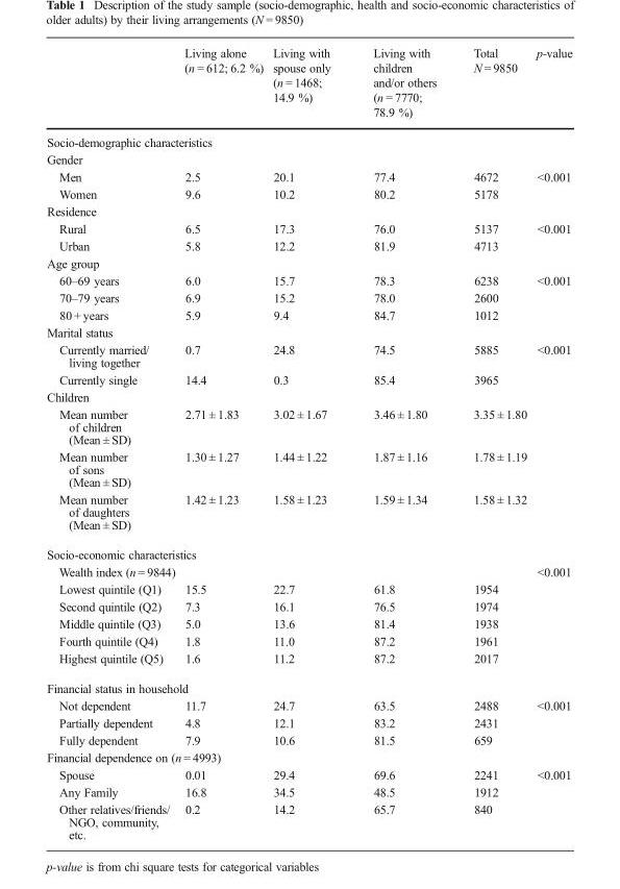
<table><thead><tr><td></td><td>Living alone (n = 612; 6.2 %)</td><td>Living with spouse only (n = 1468; 14.9 %)</td><td>Living with children and/or others (n = 7770; 78.9 %)</td><td>Total N = 9850</td><td>p-value</td></tr></thead><tbody><tr><td colspan="6">Socio-demographic characteristics</td></tr><tr><td colspan="6">Gender</td></tr><tr><td>Men</td><td>2.5</td><td>20.1</td><td>77.4</td><td>4672</td><td rowspan="2">&lt;0.001</td></tr><tr><td>Women</td><td>9.6</td><td>10.2</td><td>80.2</td><td>5178</td></tr><tr><td colspan="6">Residence</td></tr><tr><td>Rural</td><td>6.5</td><td>17.3</td><td>76.0</td><td>5137</td><td rowspan="2">&lt;0.001</td></tr><tr><td>Urban</td><td>5.8</td><td>12.2</td><td>81.9</td><td>4713</td></tr><tr><td colspan="6">Age group</td></tr><tr><td>60–69 years</td><td>6.0</td><td>15.7</td><td>78.3</td><td>6238</td><td rowspan="3">&lt;0.001</td></tr><tr><td>70–79 years</td><td>6.9</td><td>15.2</td><td>78.0</td><td>2600</td></tr><tr><td>80 + years</td><td>5.9</td><td>9.4</td><td>84.7</td><td>1012</td></tr><tr><td colspan="6">Marital status</td></tr><tr><td>Currently married/ living together</td><td>0.7</td><td>24.8</td><td>74.5</td><td>5885</td><td rowspan="2">&lt;0.001</td></tr><tr><td>Currently single</td><td>14.4</td><td>0.3</td><td>85.4</td><td>3965</td></tr><tr><td colspan="6">Children</td></tr><tr><td>Mean number of children (Mean ± SD)</td><td>2.71 ± 1.83</td><td>3.02 ± 1.67</td><td>3.46 ± 1.80</td><td>3.35 ± 1.80</td><td></td></tr><tr><td>Mean number of sons (Mean ± SD)</td><td>1.30 ± 1.27</td><td>1.44 ± 1.22</td><td>1.87 ± 1.16</td><td>1.78 ± 1.19</td><td></td></tr><tr><td>Mean number of daughters (Mean ± SD)</td><td>1.42 ± 1.23</td><td>1.58 ± 1.23</td><td>1.59 ± 1.34</td><td>1.58 ± 1.32</td><td></td></tr><tr><td colspan="6">Socio-economic characteristics</td></tr><tr><td colspan="5">Wealth index (n = 9844)</td><td rowspan="6">&lt;0.001</td></tr><tr><td>Lowest quintile (Q1)</td><td>15.5</td><td>22.7</td><td>61.8</td><td>1954</td></tr><tr><td>Second quintile (Q2)</td><td>7.3</td><td>16.1</td><td>76.5</td><td>1974</td></tr><tr><td>Middle quintile (Q3)</td><td>5.0</td><td>13.6</td><td>81.4</td><td>1938</td></tr><tr><td>Fourth quintile (Q4)</td><td>1.8</td><td>11.0</td><td>87.2</td><td>1961</td></tr><tr><td>Highest quintile (Q5)</td><td>1.6</td><td>11.2</td><td>87.2</td><td>2017</td></tr><tr><td colspan="6">Financial status in household</td></tr><tr><td>Not dependent</td><td>11.7</td><td>24.7</td><td>63.5</td><td>2488</td><td rowspan="3">&lt;0.001</td></tr><tr><td>Partially dependent</td><td>4.8</td><td>12.1</td><td>83.2</td><td>2431</td></tr><tr><td>Fully dependent</td><td>7.9</td><td>10.6</td><td>81.5</td><td>659</td></tr><tr><td colspan="6">Financial dependence on (n = 4993)</td></tr><tr><td>Spouse</td><td>0.01</td><td>29.4</td><td>69.6</td><td>2241</td><td rowspan="3">&lt;0.001</td></tr><tr><td>Any Family</td><td>16.8</td><td>34.5</td><td>48.5</td><td>1912</td></tr><tr><td>Other relatives/friends/ NGO, community, etc.</td><td>0.2</td><td>14.2</td><td>65.7</td><td>840</td></tr></tbody></table>